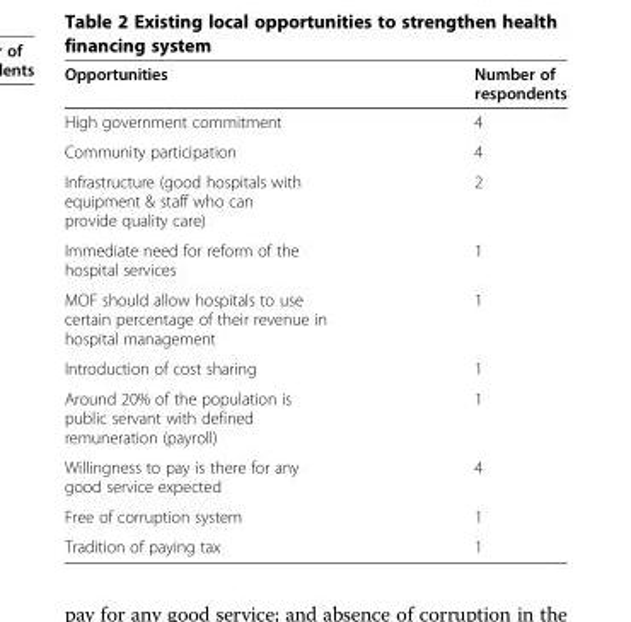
<table><thead><tr><td>Opportunities</td><td>Number of respondents</td></tr></thead><tbody><tr><td>High government commitment</td><td>4</td></tr><tr><td>Community participation</td><td>4</td></tr><tr><td>Infrastructure (good hospitals with equipment &amp; staff who can provide quality care)</td><td>2</td></tr><tr><td>Immediate need for reform of the hospital services</td><td>1</td></tr><tr><td>MOF should allow hospitals to use certain percentage of their revenue in hospital management</td><td>1</td></tr><tr><td>Introduction of cost sharing</td><td>1</td></tr><tr><td>Around 20% of the population is public servant with defined remuneration (payroll)</td><td>1</td></tr><tr><td>Willingness to pay is there for any good service expected</td><td>4</td></tr><tr><td>Free of corruption system</td><td>1</td></tr><tr><td>Tradition of paying tax</td><td>1</td></tr></tbody></table>